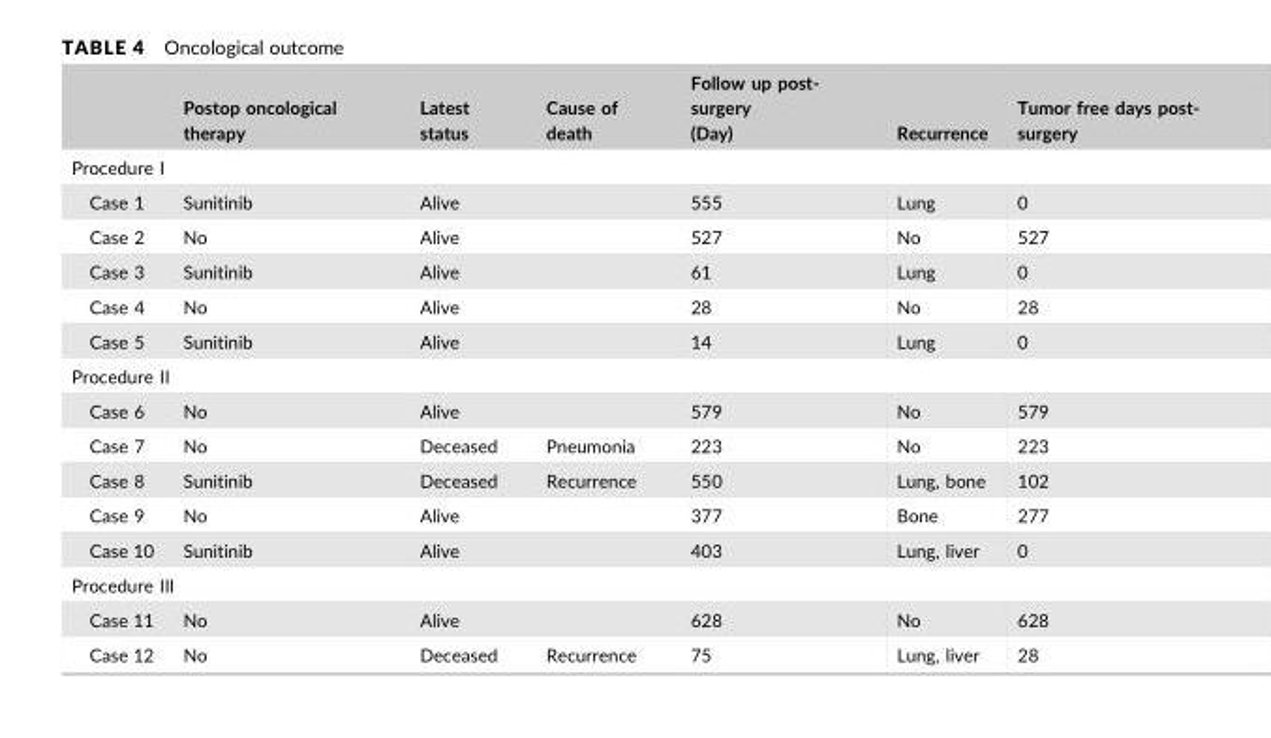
<table><thead><tr><td></td><td>Postop oncological therapy</td><td>Latest status</td><td>Cause of death</td><td>Follow up post- surgery (Day)</td><td>Recurrence</td><td>Tumor free days post- surgery</td></tr></thead><tbody><tr><td colspan="7">Procedure I</td></tr><tr><td>Case 1</td><td>Sunitinib</td><td>Alive</td><td></td><td>555</td><td>Lung</td><td>0</td></tr><tr><td>Case 2</td><td>No</td><td>Alive</td><td></td><td>527</td><td>No</td><td>527</td></tr><tr><td>Case 3</td><td>Sunitinib</td><td>Alive</td><td></td><td>61</td><td>Lung</td><td>0</td></tr><tr><td>Case 4</td><td>No</td><td>Alive</td><td></td><td>28</td><td>No</td><td>28</td></tr><tr><td>Case 5</td><td>Sunitinib</td><td>Alive</td><td></td><td>14</td><td>Lung</td><td>0</td></tr><tr><td colspan="7">Procedure II</td></tr><tr><td>Case 6</td><td>No</td><td>Alive</td><td></td><td>579</td><td>No</td><td>579</td></tr><tr><td>Case 7</td><td>No</td><td>Deceased</td><td>Pneumonia</td><td>223</td><td>No</td><td>223</td></tr><tr><td>Case 8</td><td>Sunitinib</td><td>Deceased</td><td>Recurrence</td><td>550</td><td>Lung, bone</td><td>102</td></tr><tr><td>Case 9</td><td>No</td><td>Alive</td><td></td><td>377</td><td>Bone</td><td>277</td></tr><tr><td>Case 10</td><td>Sunitinib</td><td>Alive</td><td></td><td>403</td><td>Lung, liver</td><td>0</td></tr><tr><td colspan="7">Procedure III</td></tr><tr><td>Case 11</td><td>No</td><td>Alive</td><td></td><td>628</td><td>No</td><td>628</td></tr><tr><td>Case 12</td><td>No</td><td>Deceased</td><td>Recurrence</td><td>75</td><td>Lung, liver</td><td>28</td></tr></tbody></table>